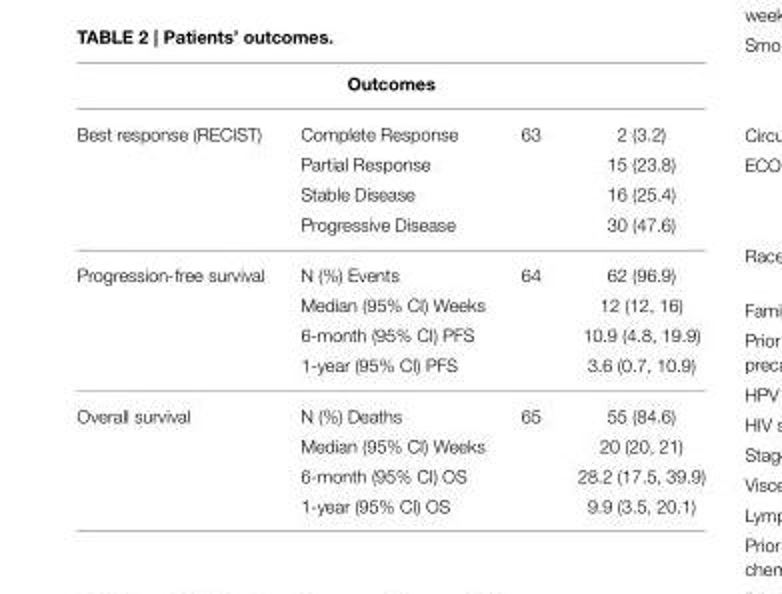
<table><thead><tr><td colspan="4">Outcomes</td></tr><tr><td>Best response (RECIST)</td><td>Complete Response</td><td>63</td><td>2 (3.2)</td></tr></thead><tbody><tr><td></td><td>Partial Response</td><td></td><td>15 (23.8)</td></tr><tr><td></td><td>Stable Disease</td><td></td><td>16 (25.4)</td></tr><tr><td></td><td>Progressive Disease</td><td></td><td>30 (47.6)</td></tr><tr><td rowspan="4">Progression-free survival</td><td>N (%) Events</td><td>64</td><td>62 (96.9)</td></tr><tr><td>Median (95% CI) Weeks</td><td></td><td>12 (12, 16)</td></tr><tr><td>6-month (95% CI) PFS</td><td></td><td>10.9 (4.8, 19.9)</td></tr><tr><td>1-year (95% CI) PFS</td><td></td><td>3.6 (0.7, 10.9)</td></tr><tr><td rowspan="4">Overall survival</td><td>N (%) Deaths</td><td>65</td><td>55 (84.6)</td></tr><tr><td>Median (95% CI) Weeks</td><td></td><td>20 (20, 21)</td></tr><tr><td>6-month (95% CI) OS</td><td></td><td>28.2 (17.5, 39.9)</td></tr><tr><td>1-year (95% CI) OS</td><td></td><td>9.9 (3.5, 20.1)</td></tr></tbody></table>